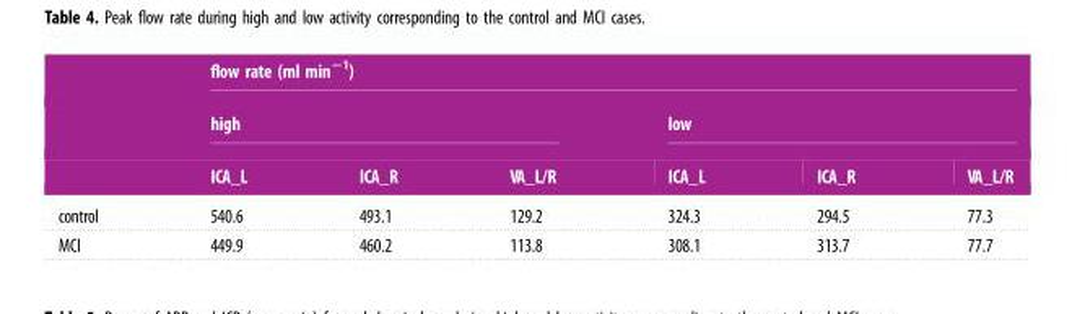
<table><thead><tr><td rowspan="3"></td><td colspan="6">flow rate (ml min<sup>−1</sup>)</td></tr><tr><td colspan="3">high</td><td colspan="3">low</td></tr><tr><td>ICA_L</td><td>ICA_R</td><td>VA_L/R</td><td>ICA_L</td><td>ICA_R</td><td>VA_L/R</td></tr></thead><tbody><tr><td>control</td><td>540.6</td><td>493.1</td><td>129.2</td><td>324.3</td><td>294.5</td><td>77.3</td></tr><tr><td>MCI</td><td>449.9</td><td>460.2</td><td>113.8</td><td>308.1</td><td>313.7</td><td>77.7</td></tr></tbody></table>